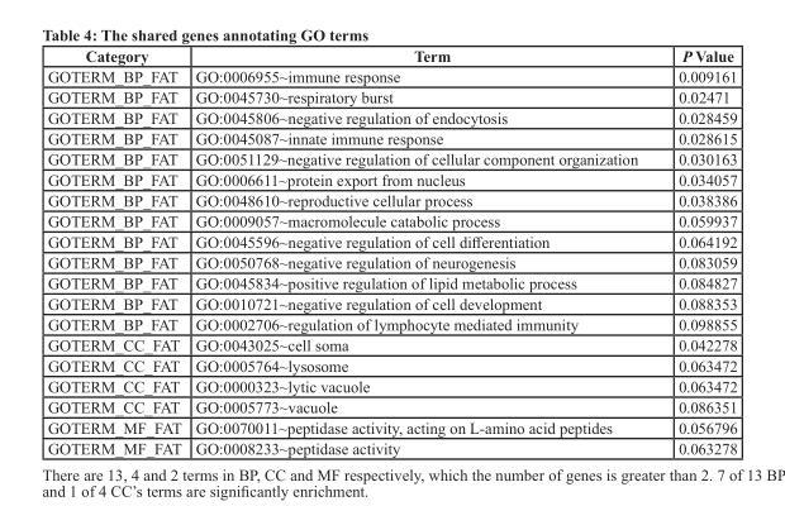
<table><thead><tr><td>Category</td><td>Term</td><td>P Value</td></tr></thead><tbody><tr><td>GOTERM_BP_FAT</td><td>GO:0006955~immune response</td><td>0.009161</td></tr><tr><td>GOTERM_BP_FAT</td><td>GO:0045730~respiratory burst</td><td>0.02471</td></tr><tr><td>GOTERM_BP_FAT</td><td>GO:0045806~negative regulation of endocytosis</td><td>0.028459</td></tr><tr><td>GOTERM_BP_FAT</td><td>GO:0045087~innate immune response</td><td>0.028615</td></tr><tr><td>GOTERM_BP_FAT</td><td>GO:0051129~negative regulation of cellular component organization</td><td>0.030163</td></tr><tr><td>GOTERM_BP_FAT</td><td>GO:0006611~protein export from nucleus</td><td>0.034057</td></tr><tr><td>GOTERM_BP_FAT</td><td>GO:0048610~reproductive cellular process</td><td>0.038386</td></tr><tr><td>GOTERM_BP_FAT</td><td>GO:0009057~macromolecule catabolic process</td><td>0.059937</td></tr><tr><td>GOTERM_BP_FAT</td><td>GO:0045596~negative regulation of cell differentiation</td><td>0.064192</td></tr><tr><td>GOTERM_BP_FAT</td><td>GO:0050768~negative regulation of neurogenesis</td><td>0.083059</td></tr><tr><td>GOTERM_BP_FAT</td><td>GO:0045834~positive regulation of lipid metabolic process</td><td>0.084827</td></tr><tr><td>GOTERM_BP_FAT</td><td>GO:0010721~negative regulation of cell development</td><td>0.088353</td></tr><tr><td>GOTERM_BP_FAT</td><td>GO:0002706~regulation of lymphocyte mediated immunity</td><td>0.098855</td></tr><tr><td>GOTERM_CC_FAT</td><td>GO:0043025~cell soma</td><td>0.042278</td></tr><tr><td>GOTERM_CC_FAT</td><td>GO:0005764~lysosome</td><td>0.063472</td></tr><tr><td>GOTERM_CC_FAT</td><td>GO:0000323~lytic vacuole</td><td>0.063472</td></tr><tr><td>GOTERM_CC_FAT</td><td>GO:0005773~vacuole</td><td>0.086351</td></tr><tr><td>GOTERM_MF_FAT</td><td>GO:0070011~peptidase activity, acting on L-amino acid peptides</td><td>0.056796</td></tr><tr><td>GOTERM_MF_FAT</td><td>GO:0008233~peptidase activity</td><td>0.063278</td></tr></tbody></table>